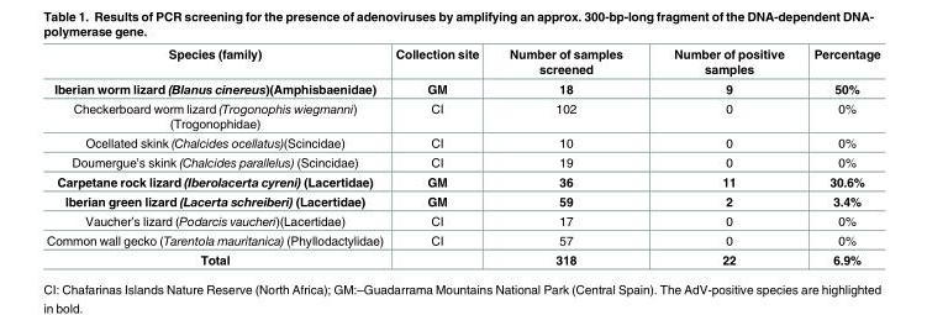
<table><thead><tr><td>Species (family)</td><td>Collection site</td><td>Number of samples screened</td><td>Number of positive samples</td><td>Percentage</td></tr></thead><tbody><tr><td>Iberian worm lizard (Blanus cinereus)(Amphisbaenidae)</td><td>GM</td><td>18</td><td>9</td><td>50%</td></tr><tr><td>Checkerboard worm lizard (Trogonophis wiegmanni) (Trogonophidae)</td><td>CI</td><td>102</td><td>0</td><td>0%</td></tr><tr><td>Ocellated skink (Chalcides ocellatus)(Scincidae)</td><td>CI</td><td>10</td><td>0</td><td>0%</td></tr><tr><td>Doumergue’s skink (Chalcides parallelus) (Scincidae)</td><td>CI</td><td>19</td><td>0</td><td>0%</td></tr><tr><td>Carpetane rock lizard (Iberolacerta cyreni) (Lacertidae)</td><td>GM</td><td>36</td><td>11</td><td>30.6%</td></tr><tr><td>Iberian green lizard (Lacerta schreiberi) (Lacertidae)</td><td>GM</td><td>59</td><td>2</td><td>3.4%</td></tr><tr><td>Vaucher’s lizard (Podarcis vaucheri)(Lacertidae)</td><td>CI</td><td>17</td><td>0</td><td>0%</td></tr><tr><td>Common wall gecko (Tarentola mauritanica) (Phyllodactylidae)</td><td>CI</td><td>57</td><td>0</td><td>0%</td></tr><tr><td>Total</td><td></td><td>318</td><td>22</td><td>6.9%</td></tr></tbody></table>